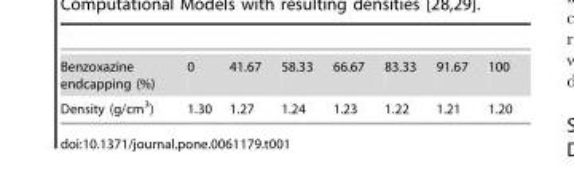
<table><tbody><tr><td>Benzoxazine endcapping (%)</td><td>0</td><td>41.67</td><td>58.33</td><td>66.67</td><td>83.33</td><td>91.67</td><td>100</td></tr><tr><td>Density (g/cm<sup>3</sup>)</td><td>1.30</td><td>1.27</td><td>1.24</td><td>1.23</td><td>1.22</td><td>1.21</td><td>1.20</td></tr></tbody></table>